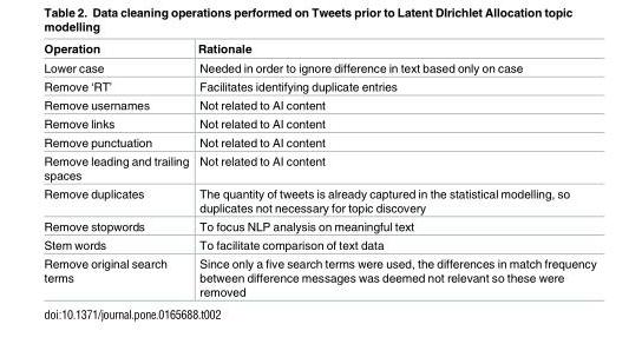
<table><thead><tr><td>Operation</td><td>Rationale</td></tr></thead><tbody><tr><td>Lower case</td><td>Needed in order to ignore difference in text based only on case</td></tr><tr><td>Remove ‘RT’</td><td>Facilitates identifying duplicate entries</td></tr><tr><td>Remove usernames</td><td>Not related to AI content</td></tr><tr><td>Remove links</td><td>Not related to AI content</td></tr><tr><td>Remove punctuation</td><td>Not related to AI content</td></tr><tr><td>Remove leading and trailing spaces</td><td>Not related to AI content</td></tr><tr><td>Remove duplicates</td><td>The quantity of tweets is already captured in the statistical modelling, so duplicates not necessary for topic discovery</td></tr><tr><td>Remove stopwords</td><td>To focus NLP analysis on meaningful text</td></tr><tr><td>Stem words</td><td>To facilitate comparison of text data</td></tr><tr><td>Remove original search terms</td><td>Since only a five search terms were used, the differences in match frequency between difference messages was deemed not relevant so these were removed</td></tr></tbody></table>